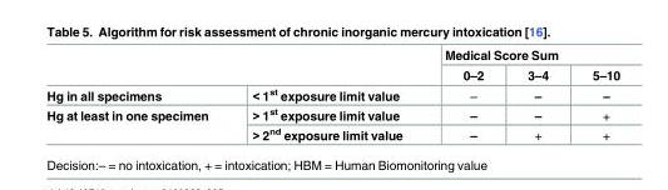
<table><thead><tr><td rowspan="2"></td><td rowspan="2"></td><td colspan="3">Medical Score Sum</td></tr><tr><td>0–2</td><td>3–4</td><td>5–10</td></tr></thead><tbody><tr><td>Hg in all specimens</td><td>&lt; 1<sup>st</sup> exposure limit value</td><td>–</td><td>–</td><td>–</td></tr><tr><td rowspan="2">Hg at least in one specimen</td><td>&gt; 1<sup>st</sup> exposure limit value</td><td>–</td><td>–</td><td>+</td></tr><tr><td>&gt; 2<sup>nd</sup> exposure limit value</td><td>–</td><td>+</td><td>+</td></tr></tbody></table>